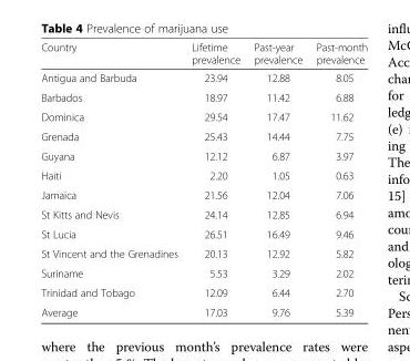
<table><thead><tr><td>Country</td><td>Lifetime prevalence</td><td>Past-year prevalence</td><td>Past-month prevalence</td></tr></thead><tbody><tr><td>Antigua and Barbuda</td><td>23.94</td><td>12.88</td><td>8.05</td></tr><tr><td>Barbados</td><td>18.97</td><td>11.42</td><td>6.88</td></tr><tr><td>Dominica</td><td>29.54</td><td>17.47</td><td>11.62</td></tr><tr><td>Grenada</td><td>25.43</td><td>14.44</td><td>7.75</td></tr><tr><td>Guyana</td><td>12.12</td><td>6.87</td><td>3.97</td></tr><tr><td>Haiti</td><td>2.20</td><td>1.05</td><td>0.63</td></tr><tr><td>Jamaica</td><td>21.56</td><td>12.04</td><td>7.06</td></tr><tr><td>St Kitts and Nevis</td><td>24.14</td><td>12.85</td><td>6.94</td></tr><tr><td>St Lucia</td><td>26.51</td><td>16.49</td><td>9.46</td></tr><tr><td>St Vincent and the Grenadines</td><td>20.13</td><td>12.92</td><td>5.82</td></tr><tr><td>Suriname</td><td>5.53</td><td>3.29</td><td>2.02</td></tr><tr><td>Trinidad and Tobago</td><td>12.09</td><td>6.44</td><td>2.70</td></tr><tr><td>Average</td><td>17.03</td><td>9.76</td><td>5.39</td></tr></tbody></table>